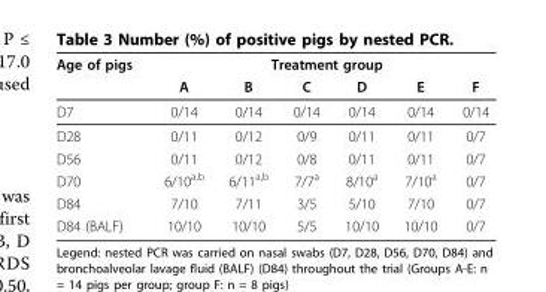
<table><thead><tr><td rowspan="2">Age of pigs</td><td colspan="6">Treatment group</td></tr><tr><td>A</td><td>B</td><td>C</td><td>D</td><td>E</td><td>F</td></tr></thead><tbody><tr><td>D7</td><td>0/14</td><td>0/14</td><td>0/14</td><td>0/14</td><td>0/14</td><td>0/14</td></tr><tr><td>D28</td><td>0/11</td><td>0/12</td><td>0/9</td><td>0/11</td><td>0/11</td><td>0/7</td></tr><tr><td>D56</td><td>0/11</td><td>0/12</td><td>0/8</td><td>0/11</td><td>0/11</td><td>0/7</td></tr><tr><td>D70</td><td>6/10<sup>a,b</sup></td><td>6/11<sup>a,b</sup></td><td>7/7<sup>a</sup></td><td>8/10<sup>a</sup></td><td>7/10<sup>a</sup></td><td>0/7</td></tr><tr><td>D84</td><td>7/10</td><td>7/11</td><td>3/5</td><td>5/10</td><td>7/10</td><td>0/7</td></tr><tr><td>D84 (BALF)</td><td>10/10</td><td>10/10</td><td>5/5</td><td>10/10</td><td>10/10</td><td>0/7</td></tr></tbody></table>